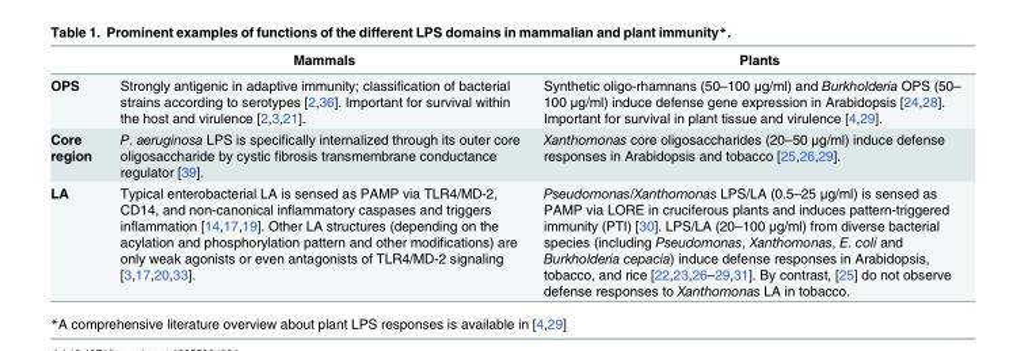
<table><thead><tr><td></td><td>Mammals</td><td>Plants</td></tr></thead><tbody><tr><td>OPS</td><td>Strongly antigenic in adaptive immunity; classification of bacterial strains according to serotypes [2,36]. Important for survival within the host and virulence [2,3,21].</td><td>Synthetic oligo-rhamnans (50–100 μg/ml) and Burkholderia OPS (50– 100 μg/ml) induce defense gene expression in Arabidopsis [24,28]. Important for survival in plant tissue and virulence [4,29].</td></tr><tr><td>Core region</td><td>P. aeruginosa LPS is specifically internalized through its outer core oligosaccharide by cystic fibrosis transmembrane conductance regulator [39].</td><td>Xanthomonas core oligosaccharides (20–50 μg/ml) induce defense responses in Arabidopsis and tobacco [25,26,29].</td></tr><tr><td>LA</td><td>Typical enterobacterial LA is sensed as PAMP via TLR4/MD-2, CD14, and non-canonical inflammatory caspases and triggers inflammation [14,17,19]. Other LA structures (depending on the acylation and phosphorylation pattern and other modifications) are only weak agonists or even antagonists of TLR4/MD-2 signaling [3,17,20,33].</td><td>Pseudomonas/Xanthomonas LPS/LA (0.5–25 μg/ml) is sensed as PAMP via LORE in cruciferous plants and induces pattern-triggered immunity (PTI) [30]. LPS/LA (20–100 μg/ml) from diverse bacterial species (including Pseudomonas, Xanthomonas, E. coli and Burkholderia cepacia) induce defense responses in Arabidopsis, tobacco, and rice [22,23,26–29,31]. By contrast, [25] do not observe defense responses to Xanthomonas LA in tobacco.</td></tr></tbody></table>